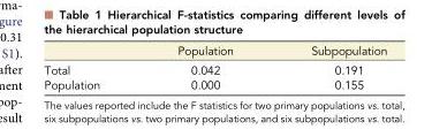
<table><thead><tr><td></td><td>Population</td><td>Subpopulation</td></tr></thead><tbody><tr><td>Total</td><td>0.042</td><td>0.191</td></tr><tr><td>Population</td><td>0.000</td><td>0.155</td></tr></tbody></table>